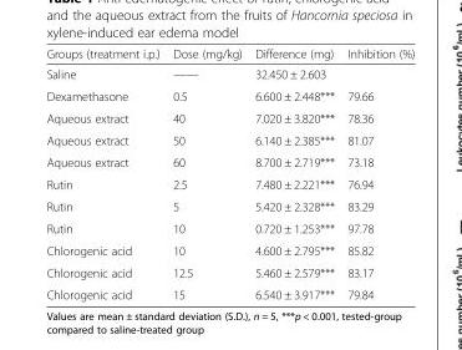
<table><thead><tr><td>Groups (treatment i.p.)</td><td>Dose (mg/kg)</td><td>Difference (mg)</td><td>Inhibition (%)</td></tr></thead><tbody><tr><td>Saline</td><td>——</td><td>32.450 ± 2.603</td><td></td></tr><tr><td>Dexamethasone</td><td>0.5</td><td>6.600 ± 2.448***</td><td>79.66</td></tr><tr><td>Aqueous extract</td><td>40</td><td>7.020 ± 3.820***</td><td>78.36</td></tr><tr><td>Aqueous extract</td><td>50</td><td>6.140 ± 2.385***</td><td>81.07</td></tr><tr><td>Aqueous extract</td><td>60</td><td>8.700 ± 2.719***</td><td>73.18</td></tr><tr><td>Rutin</td><td>2.5</td><td>7.480 ± 2.221***</td><td>76.94</td></tr><tr><td>Rutin</td><td>5</td><td>5.420 ± 2.328***</td><td>83.29</td></tr><tr><td>Rutin</td><td>10</td><td>0.720 ± 1.253***</td><td>97.78</td></tr><tr><td>Chlorogenic acid</td><td>10</td><td>4.600 ± 2.795***</td><td>85.82</td></tr><tr><td>Chlorogenic acid</td><td>12.5</td><td>5.460 ± 2.579***</td><td>83.17</td></tr><tr><td>Chlorogenic acid</td><td>15</td><td>6.540 ± 3.917***</td><td>79.84</td></tr></tbody></table>